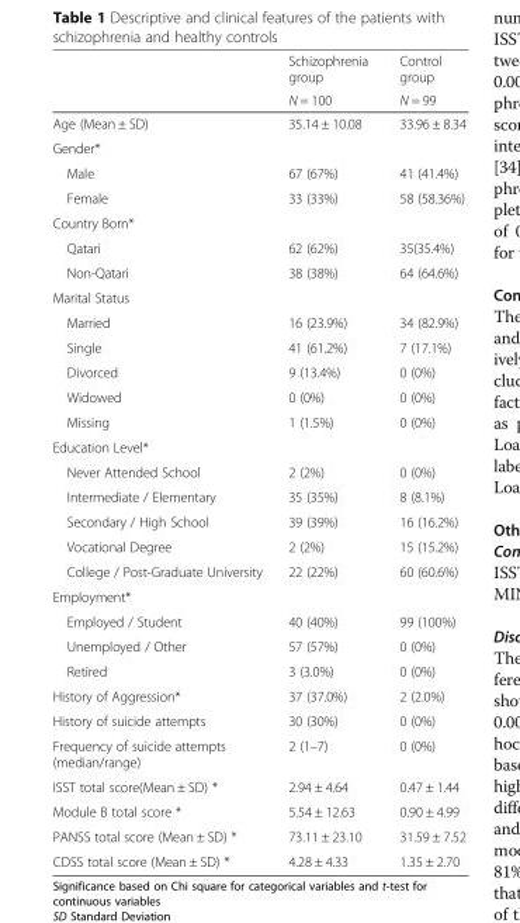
<table><thead><tr><td rowspan="2"></td><td rowspan="2">Schizophrenia group N = 100</td><td rowspan="2">Control group N = 99</td></tr><tr></tr></thead><tbody><tr><td>Age (Mean ± SD)</td><td>35.14 ± 10.08</td><td>33.96 ± 8.34</td></tr><tr><td colspan="3">Gender*</td></tr><tr><td>Male</td><td>67 (67%)</td><td>41 (41.4%)</td></tr><tr><td>Female</td><td>33 (33%)</td><td>58 (58.36%)</td></tr><tr><td colspan="3">Country Born*</td></tr><tr><td>Qatari</td><td>62 (62%)</td><td>35(35.4%)</td></tr><tr><td>Non-Qatari</td><td>38 (38%)</td><td>64 (64.6%)</td></tr><tr><td colspan="3">Marital Status</td></tr><tr><td>Married</td><td>16 (23.9%)</td><td>34 (82.9%)</td></tr><tr><td>Single</td><td>41 (61.2%)</td><td>7 (17.1%)</td></tr><tr><td>Divorced</td><td>9 (13.4%)</td><td>0 (0%)</td></tr><tr><td>Widowed</td><td>0 (0%)</td><td>0 (0%)</td></tr><tr><td>Missing</td><td>1 (1.5%)</td><td>0 (0%)</td></tr><tr><td colspan="3">Education Level*</td></tr><tr><td>Never Attended School</td><td>2 (2%)</td><td>0 (0%)</td></tr><tr><td>Intermediate / Elementary</td><td>35 (35%)</td><td>8 (8.1%)</td></tr><tr><td>Secondary / High School</td><td>39 (39%)</td><td>16 (16.2%)</td></tr><tr><td>Vocational Degree</td><td>2 (2%)</td><td>15 (15.2%)</td></tr><tr><td>College / Post-Graduate University</td><td>22 (22%)</td><td>60 (60.6%)</td></tr><tr><td colspan="3">Employment*</td></tr><tr><td>Employed / Student</td><td>40 (40%)</td><td>99 (100%)</td></tr><tr><td>Unemployed / Other</td><td>57 (57%)</td><td>0 (0%)</td></tr><tr><td>Retired</td><td>3 (3.0%)</td><td>0 (0%)</td></tr><tr><td>History of Aggression*</td><td>37 (37.0%)</td><td>2 (2.0%)</td></tr><tr><td>History of suicide attempts</td><td>30 (30%)</td><td>0 (0%)</td></tr><tr><td>Frequency of suicide attempts (median/range)</td><td>2 (1–7)</td><td>0 (0%)</td></tr><tr><td>ISST total score(Mean ± SD) *</td><td>2.94 ± 4.64</td><td>0.47 ± 1.44</td></tr><tr><td>Module B total score *</td><td>5.54 ± 12.63</td><td>0.90 ± 4.99</td></tr><tr><td>PANSS total score (Mean ± SD) *</td><td>73.11 ± 23.10</td><td>31.59 ± 7.52</td></tr><tr><td>CDSS total score (Mean ± SD) *</td><td>4.28 ± 4.33</td><td>1.35 ± 2.70</td></tr></tbody></table>